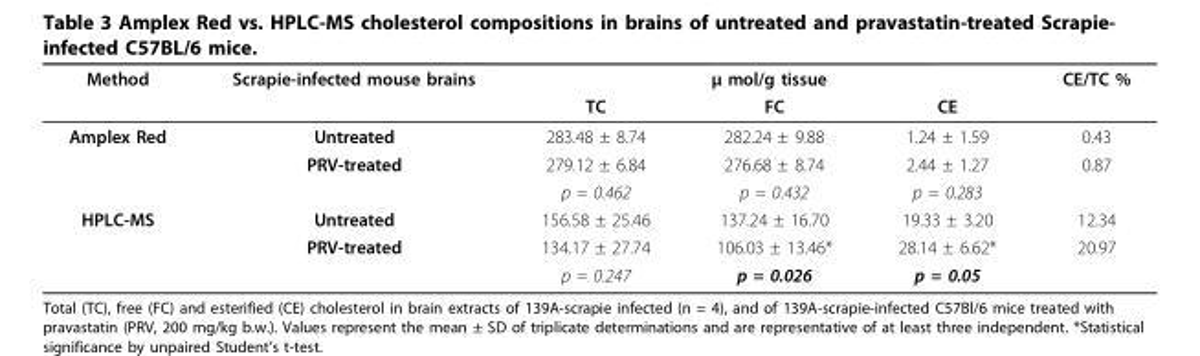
<table><thead><tr><td rowspan="2">Method</td><td rowspan="2">Scrapie-infected mouse brains</td><td colspan="3">μ mol/g tissue</td><td rowspan="2">CE/TC %</td></tr><tr><td>TC</td><td>FC</td><td>CE</td></tr></thead><tbody><tr><td rowspan="3">Amplex Red</td><td>Untreated</td><td>283.48 ± 8.74</td><td>282.24 ± 9.88</td><td>1.24 ± 1.59</td><td>0.43</td></tr><tr><td>PRV-treated</td><td>279.12 ± 6.84</td><td>276.68 ± 8.74</td><td>2.44 ± 1.27</td><td>0.87</td></tr><tr><td></td><td>p = 0.462</td><td>p = 0.432</td><td>p = 0.283</td><td></td></tr><tr><td rowspan="3">HPLC-MS</td><td>Untreated</td><td>156.58 ± 25.46</td><td>137.24 ± 16.70</td><td>19.33 ± 3.20</td><td>12.34</td></tr><tr><td>PRV-treated</td><td>134.17 ± 27.74</td><td>106.03 ± 13.46*</td><td>28.14 ± 6.62*</td><td>20.97</td></tr><tr><td></td><td>p = 0.247</td><td>p = 0.026</td><td>p = 0.05</td><td></td></tr></tbody></table>